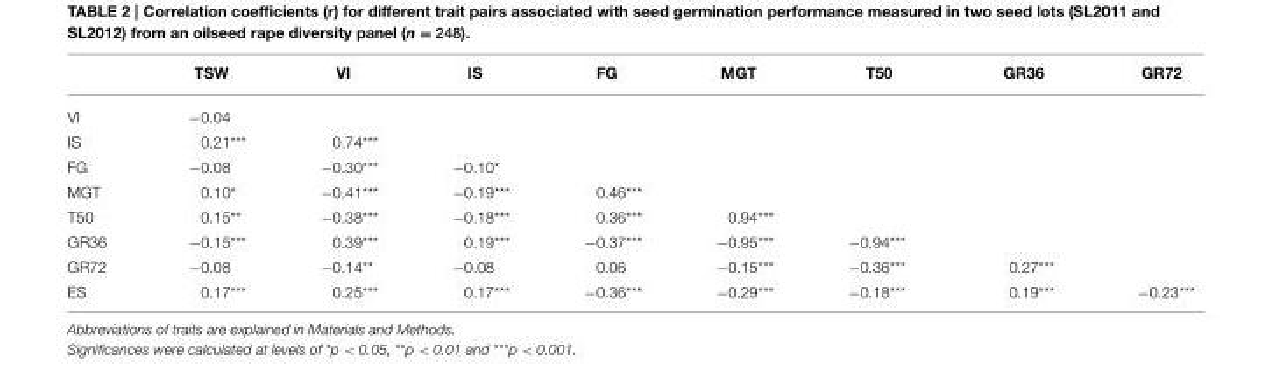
<table><thead><tr><td></td><td>TSW</td><td>VI</td><td>IS</td><td>FG</td><td>MGT</td><td>T50</td><td>GR36</td><td>GR72</td></tr></thead><tbody><tr><td>VI</td><td>−0.04</td><td></td><td></td><td></td><td></td><td></td><td></td><td></td></tr><tr><td>IS</td><td>0.21***</td><td>0.74***</td><td></td><td></td><td></td><td></td><td></td><td></td></tr><tr><td>FG</td><td>−0.08</td><td>−0.30***</td><td>−0.10*</td><td></td><td></td><td></td><td></td><td></td></tr><tr><td>MGT</td><td>0.10*</td><td>−0.41***</td><td>−0.19***</td><td>0.46***</td><td></td><td></td><td></td><td></td></tr><tr><td>T50</td><td>0.15**</td><td>−0.38***</td><td>−0.18***</td><td>0.36***</td><td>0.94***</td><td></td><td></td><td></td></tr><tr><td>GR36</td><td>−0.15***</td><td>0.39***</td><td>0.19***</td><td>−0.37***</td><td>−0.95***</td><td>−0.94***</td><td></td><td></td></tr><tr><td>GR72</td><td>−0.08</td><td>−0.14**</td><td>−0.08</td><td>0.06</td><td>−0.15***</td><td>−0.36***</td><td>0.27***</td><td></td></tr><tr><td>ES</td><td>0.17***</td><td>0.25***</td><td>0.17***</td><td>−0.36***</td><td>−0.29***</td><td>−0.18***</td><td>0.19***</td><td>−0.23***</td></tr></tbody></table>